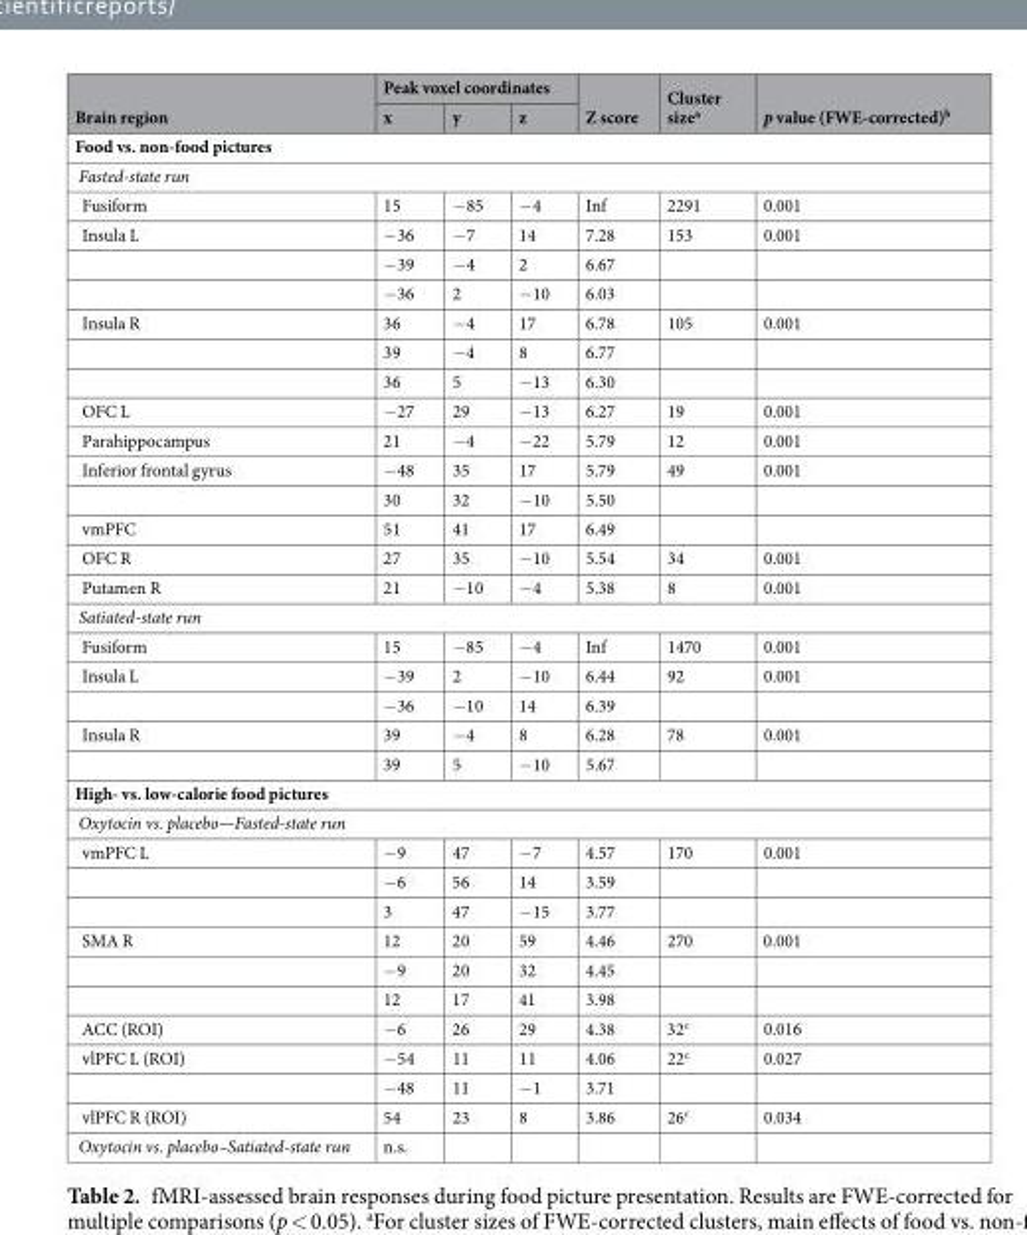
<table><thead><tr><td rowspan="2">Brain region</td><td colspan="3">Peak voxel coordinates</td><td rowspan="2">Z score</td><td rowspan="2">Cluster size<sup>a</sup></td><td rowspan="2">p value (FWE-corrected)<sup>b</sup></td></tr><tr><td>x</td><td>y</td><td>z</td></tr></thead><tbody><tr><td colspan="7">Food vs. non-food pictures</td></tr><tr><td colspan="7">Fasted-state run</td></tr><tr><td>Fusiform</td><td>15</td><td>−85</td><td>−4</td><td>Inf</td><td>2291</td><td>0.001</td></tr><tr><td rowspan="3">Insula L</td><td>−36</td><td>−7</td><td>14</td><td>7.28</td><td>153</td><td>0.001</td></tr><tr><td>−39</td><td>−4</td><td>2</td><td>6.67</td><td></td><td></td></tr><tr><td>−36</td><td>2</td><td>−10</td><td>6.03</td><td></td><td></td></tr><tr><td rowspan="3">Insula R</td><td>36</td><td>−4</td><td>17</td><td>6.78</td><td>105</td><td>0.001</td></tr><tr><td>39</td><td>−4</td><td>8</td><td>6.77</td><td></td><td></td></tr><tr><td>36</td><td>5</td><td>−13</td><td>6.30</td><td></td><td></td></tr><tr><td>OFC L</td><td>−27</td><td>29</td><td>−13</td><td>6.27</td><td>19</td><td>0.001</td></tr><tr><td>Parahippocampus</td><td>21</td><td>−4</td><td>−22</td><td>5.79</td><td>12</td><td>0.001</td></tr><tr><td rowspan="2">Inferior frontal gyrus</td><td>−48</td><td>35</td><td>17</td><td>5.79</td><td>49</td><td>0.001</td></tr><tr><td>30</td><td>32</td><td>−10</td><td>5.50</td><td></td><td></td></tr><tr><td>vmPFC</td><td>51</td><td>41</td><td>17</td><td>6.49</td><td></td><td></td></tr><tr><td>OFC R</td><td>27</td><td>35</td><td>−10</td><td>5.54</td><td>34</td><td>0.001</td></tr><tr><td>Putamen R</td><td>21</td><td>−10</td><td>−4</td><td>5.38</td><td>8</td><td>0.001</td></tr><tr><td colspan="7">Satiated-state run</td></tr><tr><td>Fusiform</td><td>15</td><td>−85</td><td>−4</td><td>Inf</td><td>1470</td><td>0.001</td></tr><tr><td rowspan="2">Insula L</td><td>−39</td><td>2</td><td>−10</td><td>6.44</td><td>92</td><td>0.001</td></tr><tr><td>−36</td><td>−10</td><td>14</td><td>6.39</td><td></td><td></td></tr><tr><td rowspan="2">Insula R</td><td>39</td><td>−4</td><td>8</td><td>6.28</td><td>78</td><td>0.001</td></tr><tr><td>39</td><td>5</td><td>−10</td><td>5.67</td><td></td><td></td></tr><tr><td colspan="7">High- vs. low-calorie food pictures</td></tr><tr><td colspan="7">Oxytocin vs. placebo—Fasted-state run</td></tr><tr><td rowspan="3">vmPFC L</td><td>−9</td><td>47</td><td>−7</td><td>4.57</td><td>170</td><td>0.001</td></tr><tr><td>−6</td><td>56</td><td>14</td><td>3.59</td><td></td><td></td></tr><tr><td>3</td><td>47</td><td>−15</td><td>3.77</td><td></td><td></td></tr><tr><td rowspan="3">SMA R</td><td>12</td><td>20</td><td>59</td><td>4.46</td><td>270</td><td>0.001</td></tr><tr><td>−9</td><td>20</td><td>32</td><td>4.45</td><td></td><td></td></tr><tr><td>12</td><td>17</td><td>41</td><td>3.98</td><td></td><td></td></tr><tr><td>ACC (ROI)</td><td>−6</td><td>26</td><td>29</td><td>4.38</td><td>32<sup>c</sup></td><td>0.016</td></tr><tr><td rowspan="2">vlPFC L (ROI)</td><td>−54</td><td>11</td><td>11</td><td>4.06</td><td>22<sup>c</sup></td><td>0.027</td></tr><tr><td>−48</td><td>11</td><td>−1</td><td>3.71</td><td></td><td></td></tr><tr><td>vlPFC R (ROI)</td><td>54</td><td>23</td><td>8</td><td>3.86</td><td>26<sup>c</sup></td><td>0.034</td></tr><tr><td>Oxytocin vs. placebo–Satiated-state run</td><td>n.s.</td><td></td><td></td><td></td><td></td><td></td></tr></tbody></table>